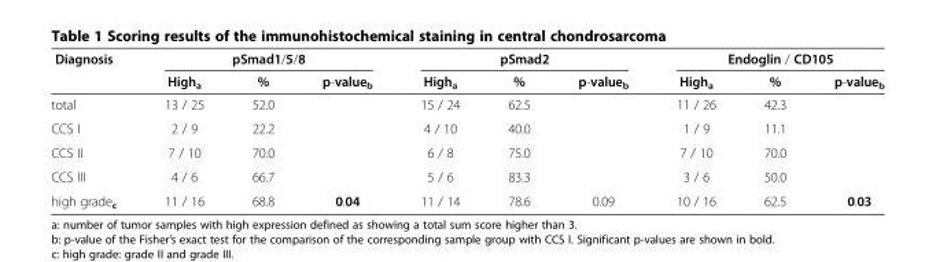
<table><thead><tr><td rowspan="2">Diagnosis</td><td colspan="3">pSmad1/5/8</td><td colspan="3">pSmad2</td><td colspan="3">Endoglin / CD105</td></tr><tr><td>High<sub>a</sub></td><td>%</td><td>p-value<sub>b</sub></td><td>High<sub>a</sub></td><td>%</td><td>p-value<sub>b</sub></td><td>High<sub>a</sub></td><td>%</td><td>p-value<sub>b</sub></td></tr></thead><tbody><tr><td>total</td><td>13 / 25</td><td>52.0</td><td></td><td>15 / 24</td><td>62.5</td><td></td><td>11 / 26</td><td>42.3</td><td></td></tr><tr><td>CCS I</td><td>2 / 9</td><td>22.2</td><td></td><td>4 / 10</td><td>40.0</td><td></td><td>1 / 9</td><td>11.1</td><td></td></tr><tr><td>CCS II</td><td>7 / 10</td><td>70.0</td><td></td><td>6 / 8</td><td>75.0</td><td></td><td>7 / 10</td><td>70.0</td><td></td></tr><tr><td>CCS III</td><td>4 / 6</td><td>66.7</td><td></td><td>5 / 6</td><td>83.3</td><td></td><td>3 / 6</td><td>50.0</td><td></td></tr><tr><td>high grade<sub>c</sub></td><td>11 / 16</td><td>68.8</td><td>0.04</td><td>11 / 14</td><td>78.6</td><td>0.09</td><td>10 / 16</td><td>62.5</td><td>0.03</td></tr></tbody></table>